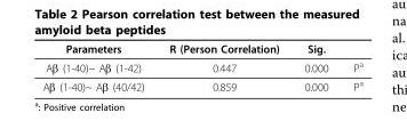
<table><thead><tr><td>Parameters</td><td>R (Person Correlation)</td><td>Sig.</td><td></td></tr></thead><tbody><tr><td>Aβ (1-40)~ Aβ (1-42)</td><td>0.447</td><td>0.000</td><td>P<sup>a</sup></td></tr><tr><td>Aβ (1-40)~ Aβ (40/42)</td><td>0.859</td><td>0.000</td><td>P<sup>a</sup></td></tr></tbody></table>